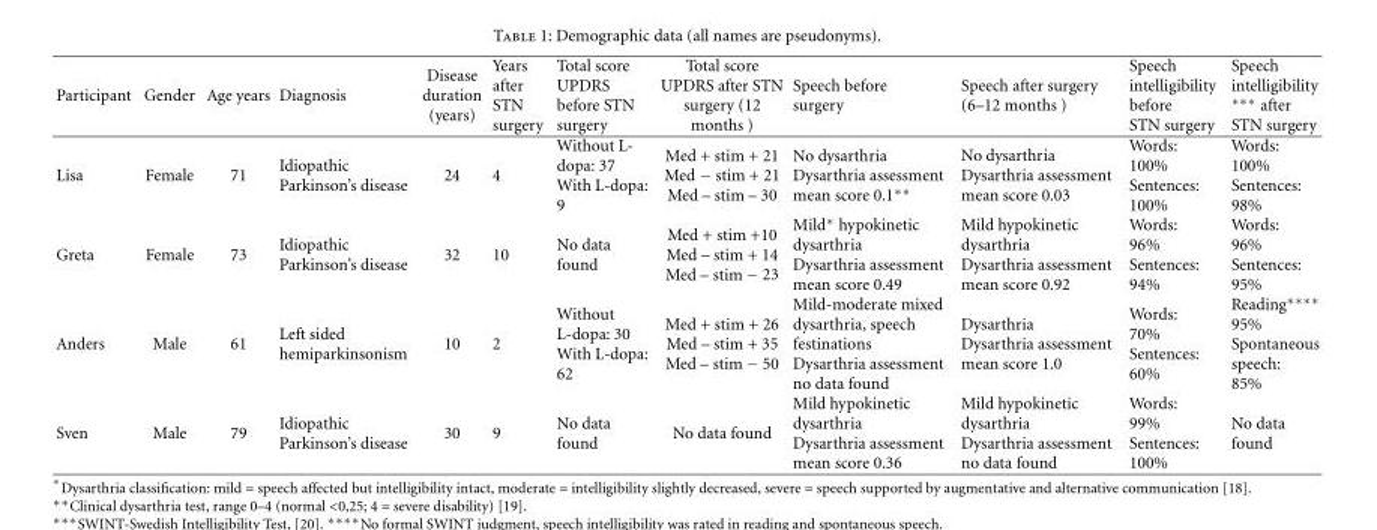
<table><thead><tr><td>Participant</td><td>Gender</td><td>Age years</td><td>Diagnosis</td><td>Disease duration (years)</td><td>Years after STN surgery</td><td>Total score UPDRS before STN surgery</td><td>Total score UPDRS after STN surgery (12 months )</td><td>Speech before surgery</td><td>Speech after surgery (6–12 months )</td><td>Speech intelligibility before STN surgery</td><td>Speech intelligibility ∗∗∗ after STN surgery</td></tr></thead><tbody><tr><td>Lisa</td><td>Female</td><td>71</td><td>Idiopathic Parkinson’s disease</td><td>24</td><td>4</td><td>Without L- dopa: 37 With L-dopa: 9</td><td>Med + stim + 21 Med − stim + 21 Med – stim – 30</td><td>No dysarthria Dysarthria assessment mean score 0.1∗∗</td><td>No dysarthria Dysarthria assessment mean score 0.03</td><td>Words: 100% Sentences: 100%</td><td>Words: 100% Sentences: 98%</td></tr><tr><td>Greta</td><td>Female</td><td>73</td><td>Idiopathic Parkinson’s disease</td><td>32</td><td>10</td><td>No data found</td><td>Med + stim +10 Med – stim + 14 Med – stim − 23</td><td>Mild∗ hypokinetic dysarthria Dysarthria assessment mean score 0.49</td><td>Mild hypokinetic dysarthria Dysarthria assessment mean score 0.92</td><td>Words: 96% Sentences: 94%</td><td>Words: 96% Sentences: 95%</td></tr><tr><td>Anders</td><td>Male</td><td>61</td><td>Left sided hemiparkinsonism</td><td>10</td><td>2</td><td>Without L-dopa: 30 With L-dopa: 62</td><td>Med + stim + 26 Med – stim + 35 Med – stim − 50</td><td>Mild-moderate mixed dysarthria, speech festinations Dysarthria assessment no data found</td><td>Dysarthria Dysarthria assessment mean score 1.0</td><td>Words: 70% Sentences: 60%</td><td>Reading∗∗∗∗ 95% Spontaneous speech: 85%</td></tr><tr><td>Sven</td><td>Male</td><td>79</td><td>Idiopathic Parkinson’s disease</td><td>30</td><td>9</td><td>No data found</td><td>No data found</td><td>Mild hypokinetic dysarthria Dysarthria assessment mean score 0.36</td><td>Mild hypokinetic dysarthria Dysarthria assessment no data found</td><td>Words: 99% Sentences: 100%</td><td>No data found</td></tr></tbody></table>